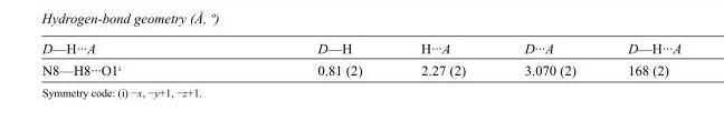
<table><tbody><tr><td>D—H···A</td><td>D—H</td><td>H···A</td><td>D···A</td><td>D—H···A</td></tr><tr><td>N8—H8···O1<sup>i</sup></td><td>0.81 (2)</td><td>2.27 (2)</td><td>3.070 (2)</td><td>168 (2)</td></tr></tbody></table>